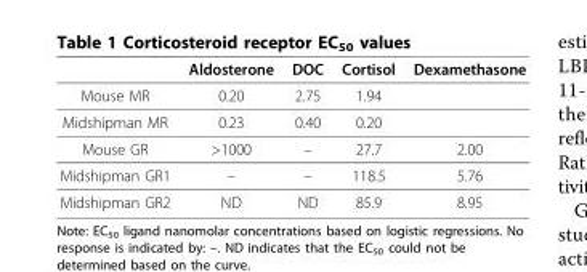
<table><thead><tr><td></td><td>Aldosterone</td><td>DOC</td><td>Cortisol</td><td>Dexamethasone</td></tr></thead><tbody><tr><td>Mouse MR</td><td>0.20</td><td>2.75</td><td>1.94</td><td></td></tr><tr><td>Midshipman MR</td><td>0.23</td><td>0.40</td><td>0.20</td><td></td></tr><tr><td>Mouse GR</td><td>&gt;1000</td><td>–</td><td>27.7</td><td>2.00</td></tr><tr><td>Midshipman GR1</td><td>–</td><td>–</td><td>118.5</td><td>5.76</td></tr><tr><td>Midshipman GR2</td><td>ND</td><td>ND</td><td>85.9</td><td>8.95</td></tr></tbody></table>